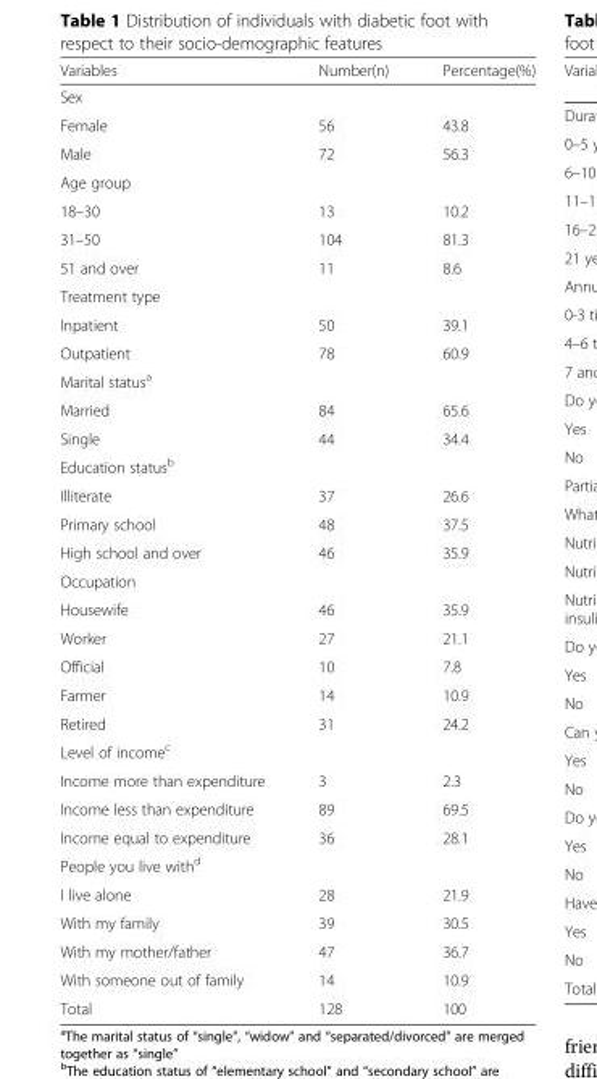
<table><thead><tr><td>Variables</td><td>Number(n)</td><td>Percentage(%)</td></tr></thead><tbody><tr><td colspan="3">Sex</td></tr><tr><td>Female</td><td>56</td><td>43.8</td></tr><tr><td>Male</td><td>72</td><td>56.3</td></tr><tr><td colspan="3">Age group</td></tr><tr><td>18–30</td><td>13</td><td>10.2</td></tr><tr><td>31–50</td><td>104</td><td>81.3</td></tr><tr><td>51 and over</td><td>11</td><td>8.6</td></tr><tr><td colspan="3">Treatment type</td></tr><tr><td>Inpatient</td><td>50</td><td>39.1</td></tr><tr><td>Outpatient</td><td>78</td><td>60.9</td></tr><tr><td colspan="3">Marital status<sup>a</sup></td></tr><tr><td>Married</td><td>84</td><td>65.6</td></tr><tr><td>Single</td><td>44</td><td>34.4</td></tr><tr><td colspan="3">Education status<sup>b</sup></td></tr><tr><td>Illiterate</td><td>37</td><td>26.6</td></tr><tr><td>Primary school</td><td>48</td><td>37.5</td></tr><tr><td>High school and over</td><td>46</td><td>35.9</td></tr><tr><td colspan="3">Occupation</td></tr><tr><td>Housewife</td><td>46</td><td>35.9</td></tr><tr><td>Worker</td><td>27</td><td>21.1</td></tr><tr><td>Official</td><td>10</td><td>7.8</td></tr><tr><td>Farmer</td><td>14</td><td>10.9</td></tr><tr><td>Retired</td><td>31</td><td>24.2</td></tr><tr><td colspan="3">Level of income<sup>c</sup></td></tr><tr><td>Income more than expenditure</td><td>3</td><td>2.3</td></tr><tr><td>Income less than expenditure</td><td>89</td><td>69.5</td></tr><tr><td>Income equal to expenditure</td><td>36</td><td>28.1</td></tr><tr><td colspan="3">People you live with<sup>d</sup></td></tr><tr><td>I live alone</td><td>28</td><td>21.9</td></tr><tr><td>With my family</td><td>39</td><td>30.5</td></tr><tr><td>With my mother/father</td><td>47</td><td>36.7</td></tr><tr><td>With someone out of family</td><td>14</td><td>10.9</td></tr><tr><td>Total</td><td>128</td><td>100</td></tr></tbody></table>